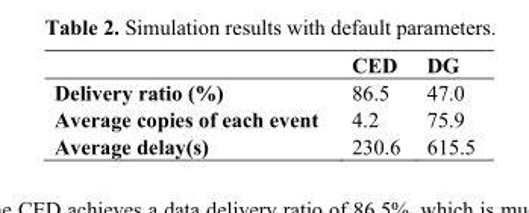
<table><thead><tr><td></td><td>CED</td><td>DG</td></tr></thead><tbody><tr><td>Delivery ratio (%)</td><td>86.5</td><td>47.0</td></tr><tr><td>Average copies of each event</td><td>4.2</td><td>75.9</td></tr><tr><td>Average delay(s)</td><td>230.6</td><td>615.5</td></tr></tbody></table>